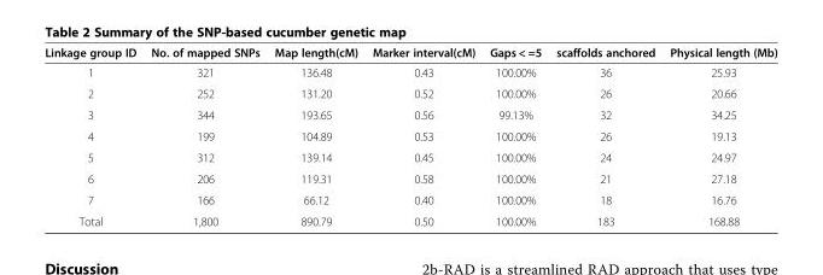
<table><thead><tr><td>Linkage group ID</td><td>No. of mapped SNPs</td><td>Map length(cM)</td><td>Marker interval(cM)</td><td>Gaps &lt; =5</td><td>scaffolds anchored</td><td>Physical length (Mb)</td></tr></thead><tbody><tr><td>1</td><td>321</td><td>136.48</td><td>0.43</td><td>100.00%</td><td>36</td><td>25.93</td></tr><tr><td>2</td><td>252</td><td>131.20</td><td>0.52</td><td>100.00%</td><td>26</td><td>20.66</td></tr><tr><td>3</td><td>344</td><td>193.65</td><td>0.56</td><td>99.13%</td><td>32</td><td>34.25</td></tr><tr><td>4</td><td>199</td><td>104.89</td><td>0.53</td><td>100.00%</td><td>26</td><td>19.13</td></tr><tr><td>5</td><td>312</td><td>139.14</td><td>0.45</td><td>100.00%</td><td>24</td><td>24.97</td></tr><tr><td>6</td><td>206</td><td>119.31</td><td>0.58</td><td>100.00%</td><td>21</td><td>27.18</td></tr><tr><td>7</td><td>166</td><td>66.12</td><td>0.40</td><td>100.00%</td><td>18</td><td>16.76</td></tr><tr><td>Total</td><td>1,800</td><td>890.79</td><td>0.50</td><td>100.00%</td><td>183</td><td>168.88</td></tr></tbody></table>